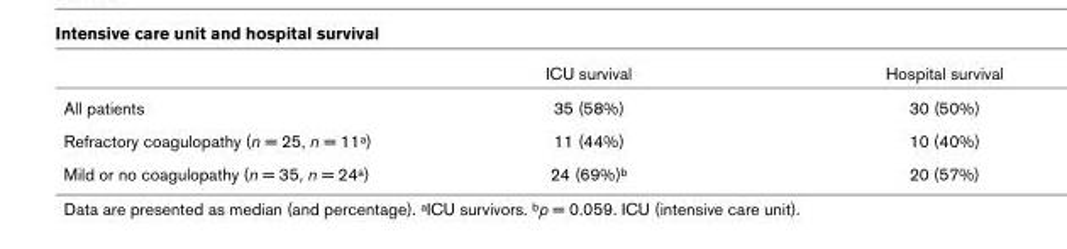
<table><thead><tr><td></td><td>ICU survival</td><td>Hospital survival</td></tr></thead><tbody><tr><td>All patients</td><td>35 (58%)</td><td>30 (50%)</td></tr><tr><td>Refractory coagulopathy (n = 25, n = 11<sup>a</sup>)</td><td>11 (44%)</td><td>10 (40%)</td></tr><tr><td>Mild or no coagulopathy (n = 35, n = 24<sup>a</sup>)</td><td>24 (69%)<sup>b</sup></td><td>20 (57%)</td></tr></tbody></table>